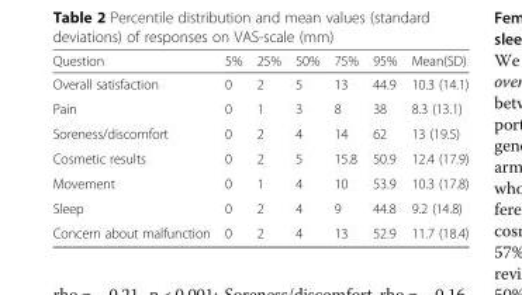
<table><thead><tr><td>Question</td><td>5%</td><td>25%</td><td>50%</td><td>75%</td><td>95%</td><td>Mean(SD)</td></tr></thead><tbody><tr><td>Overall satisfaction</td><td>0</td><td>2</td><td>5</td><td>13</td><td>44.9</td><td>10.3 (14.1)</td></tr><tr><td>Pain</td><td>0</td><td>1</td><td>3</td><td>8</td><td>38</td><td>8.3 (13.1)</td></tr><tr><td>Soreness/discomfort</td><td>0</td><td>2</td><td>4</td><td>14</td><td>62</td><td>13 (19.5)</td></tr><tr><td>Cosmetic results</td><td>0</td><td>2</td><td>5</td><td>15.8</td><td>50.9</td><td>12.4 (17.9)</td></tr><tr><td>Movement</td><td>0</td><td>1</td><td>4</td><td>10</td><td>53.9</td><td>10.3 (17.8)</td></tr><tr><td>Sleep</td><td>0</td><td>2</td><td>4</td><td>9</td><td>44.8</td><td>9.2 (14.8)</td></tr><tr><td>Concern about malfunction</td><td>0</td><td>2</td><td>4</td><td>13</td><td>52.9</td><td>11.7 (18.4)</td></tr></tbody></table>